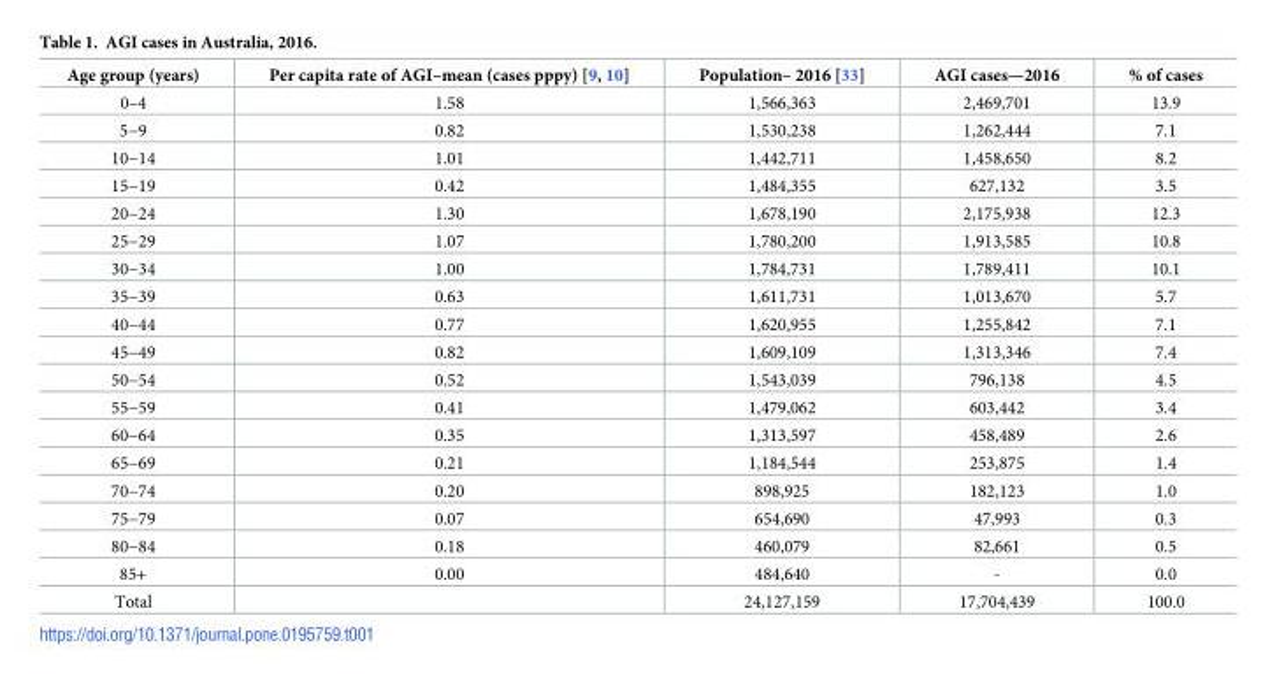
<table><thead><tr><td>Age group (years)</td><td>Per capita rate of AGI–mean (cases pppy) [9, 10]</td><td>Population– 2016 [33]</td><td>AGI cases—2016</td><td>% of cases</td></tr></thead><tbody><tr><td>0–4</td><td>1.58</td><td>1,566,363</td><td>2,469,701</td><td>13.9</td></tr><tr><td>5−9</td><td>0.82</td><td>1,530,238</td><td>1,262,444</td><td>7.1</td></tr><tr><td>10−14</td><td>1.01</td><td>1,442,711</td><td>1,458,650</td><td>8.2</td></tr><tr><td>15−19</td><td>0.42</td><td>1,484,355</td><td>627,132</td><td>3.5</td></tr><tr><td>20−24</td><td>1.30</td><td>1,678,190</td><td>2,175,938</td><td>12.3</td></tr><tr><td>25−29</td><td>1.07</td><td>1,780,200</td><td>1,913,585</td><td>10.8</td></tr><tr><td>30−34</td><td>1.00</td><td>1,784,731</td><td>1,789,411</td><td>10.1</td></tr><tr><td>35−39</td><td>0.63</td><td>1,611,731</td><td>1,013,670</td><td>5.7</td></tr><tr><td>40−44</td><td>0.77</td><td>1,620,955</td><td>1,255,842</td><td>7.1</td></tr><tr><td>45−49</td><td>0.82</td><td>1,609,109</td><td>1,313,346</td><td>7.4</td></tr><tr><td>50−54</td><td>0.52</td><td>1,543,039</td><td>796,138</td><td>4.5</td></tr><tr><td>55−59</td><td>0.41</td><td>1,479,062</td><td>603,442</td><td>3.4</td></tr><tr><td>60−64</td><td>0.35</td><td>1,313,597</td><td>458,489</td><td>2.6</td></tr><tr><td>65−69</td><td>0.21</td><td>1,184,544</td><td>253,875</td><td>1.4</td></tr><tr><td>70−74</td><td>0.20</td><td>898,925</td><td>182,123</td><td>1.0</td></tr><tr><td>75−79</td><td>0.07</td><td>654,690</td><td>47,993</td><td>0.3</td></tr><tr><td>80−84</td><td>0.18</td><td>460,079</td><td>82,661</td><td>0.5</td></tr><tr><td>85+</td><td>0.00</td><td>484,640</td><td>-</td><td>0.0</td></tr><tr><td>Total</td><td></td><td>24,127,159</td><td>17,704,439</td><td>100.0</td></tr></tbody></table>